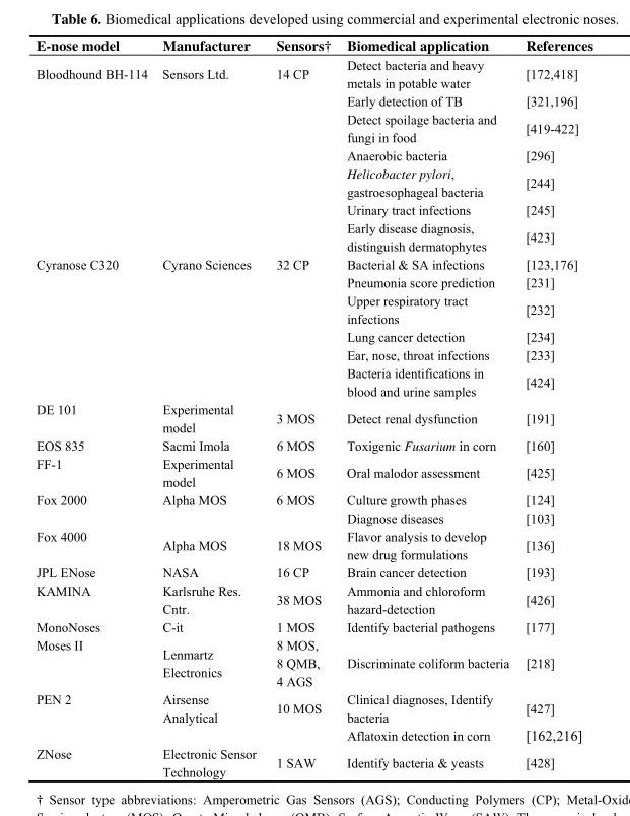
<table><thead><tr><td>E-nose model</td><td>Manufacturer</td><td>Sensors†</td><td>Biomedical application</td><td>References</td></tr></thead><tbody><tr><td rowspan="7">Bloodhound BH-114</td><td rowspan="7">Sensors Ltd.</td><td rowspan="7">14 CP</td><td>Detect bacteria and heavy metals in potable water</td><td>[172,418]</td></tr><tr><td>Early detection of TB</td><td>[321,196]</td></tr><tr><td>Detect spoilage bacteria and fungi in food</td><td>[419-422]</td></tr><tr><td>Anaerobic bacteria</td><td>[296]</td></tr><tr><td>Helicobacter pylori, gastroesophageal bacteria</td><td>[244]</td></tr><tr><td>Urinary tract infections</td><td>[245]</td></tr><tr><td>Early disease diagnosis, distinguish dermatophytes</td><td>[423]</td></tr><tr><td rowspan="6">Cyranose C320</td><td rowspan="6">Cyrano Sciences</td><td rowspan="6">32 CP</td><td>Bacterial &amp; SA infections</td><td>[123,176]</td></tr><tr><td>Pneumonia score prediction</td><td>[231]</td></tr><tr><td>Upper respiratory tract infections</td><td>[232]</td></tr><tr><td>Lung cancer detection</td><td>[234]</td></tr><tr><td>Ear, nose, throat infections</td><td>[233]</td></tr><tr><td>Bacteria identifications in blood and urine samples</td><td>[424]</td></tr><tr><td>DE 101</td><td>Experimental model</td><td>3 MOS</td><td>Detect renal dysfunction</td><td>[191]</td></tr><tr><td>EOS 835</td><td>Sacmi Imola</td><td>6 MOS</td><td>Toxigenic Fusarium in corn</td><td>[160]</td></tr><tr><td>FF-1</td><td>Experimental model</td><td>6 MOS</td><td>Oral malodor assessment</td><td>[425]</td></tr><tr><td rowspan="2">Fox 2000</td><td rowspan="2">Alpha MOS</td><td rowspan="2">6 MOS</td><td>Culture growth phases</td><td>[124]</td></tr><tr><td>Diagnose diseases</td><td>[103]</td></tr><tr><td>Fox 4000</td><td>Alpha MOS</td><td>18 MOS</td><td>Flavor analysis to develop new drug formulations</td><td>[136]</td></tr><tr><td>JPL ENose</td><td>NASA</td><td>16 CP</td><td>Brain cancer detection</td><td>[193]</td></tr><tr><td>KAMINA</td><td>Karlsruhe Res. Cntr.</td><td>38 MOS</td><td>Ammonia and chloroform hazard-detection</td><td>[426]</td></tr><tr><td>MonoNoses</td><td>C-it</td><td>1 MOS</td><td>Identify bacterial pathogens</td><td>[177]</td></tr><tr><td>Moses II</td><td>Lenmartz Electronics</td><td>8 MOS, 8 QMB, 4 AGS</td><td>Discriminate coliform bacteria</td><td>[218]</td></tr><tr><td rowspan="2">PEN 2</td><td rowspan="2">Airsense Analytical</td><td rowspan="2">10 MOS</td><td>Clinical diagnoses, Identify bacteria</td><td>[427]</td></tr><tr><td>Aflatoxin detection in corn</td><td>[162,216]</td></tr><tr><td>ZNose</td><td>Electronic Sensor Technology</td><td>1 SAW</td><td>Identify bacteria &amp; yeasts</td><td>[428]</td></tr></tbody></table>